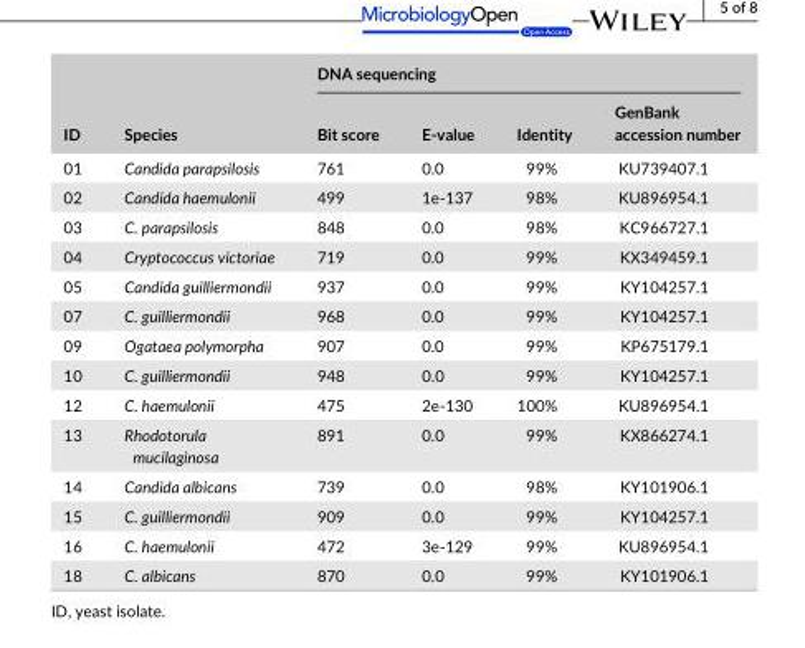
<table><thead><tr><td rowspan="2">ID</td><td rowspan="2">Species</td><td colspan="4">DNA sequencing</td></tr><tr><td>Bit score</td><td>E- value</td><td>Identity</td><td>GenBank accession number</td></tr></thead><tbody><tr><td>01</td><td>Candida parapsilosis</td><td>761</td><td>0.0</td><td>99%</td><td>KU739407.1</td></tr><tr><td>02</td><td>Candida haemulonii</td><td>499</td><td>1e- 137</td><td>98%</td><td>KU896954.1</td></tr><tr><td>03</td><td>C. parapsilosis</td><td>848</td><td>0.0</td><td>98%</td><td>KC966727.1</td></tr><tr><td>04</td><td>Cryptococcus victoriae</td><td>719</td><td>0.0</td><td>99%</td><td>KX349459.1</td></tr><tr><td>05</td><td>Candida guilliermondii</td><td>937</td><td>0.0</td><td>99%</td><td>KY104257.1</td></tr><tr><td>07</td><td>C. guilliermondii</td><td>968</td><td>0.0</td><td>99%</td><td>KY104257.1</td></tr><tr><td>09</td><td>Ogataea polymorpha</td><td>907</td><td>0.0</td><td>99%</td><td>KP675179.1</td></tr><tr><td>10</td><td>C. guilliermondii</td><td>948</td><td>0.0</td><td>99%</td><td>KY104257.1</td></tr><tr><td>12</td><td>C. haemulonii</td><td>475</td><td>2e- 130</td><td>100%</td><td>KU896954.1</td></tr><tr><td>13</td><td>Rhodotorula mucilaginosa</td><td>891</td><td>0.0</td><td>99%</td><td>KX866274.1</td></tr><tr><td>14</td><td>Candida albicans</td><td>739</td><td>0.0</td><td>98%</td><td>KY101906.1</td></tr><tr><td>15</td><td>C. guilliermondii</td><td>909</td><td>0.0</td><td>99%</td><td>KY104257.1</td></tr><tr><td>16</td><td>C. haemulonii</td><td>472</td><td>3e- 129</td><td>99%</td><td>KU896954.1</td></tr><tr><td>18</td><td>C. albicans</td><td>870</td><td>0.0</td><td>99%</td><td>KY101906.1</td></tr></tbody></table>